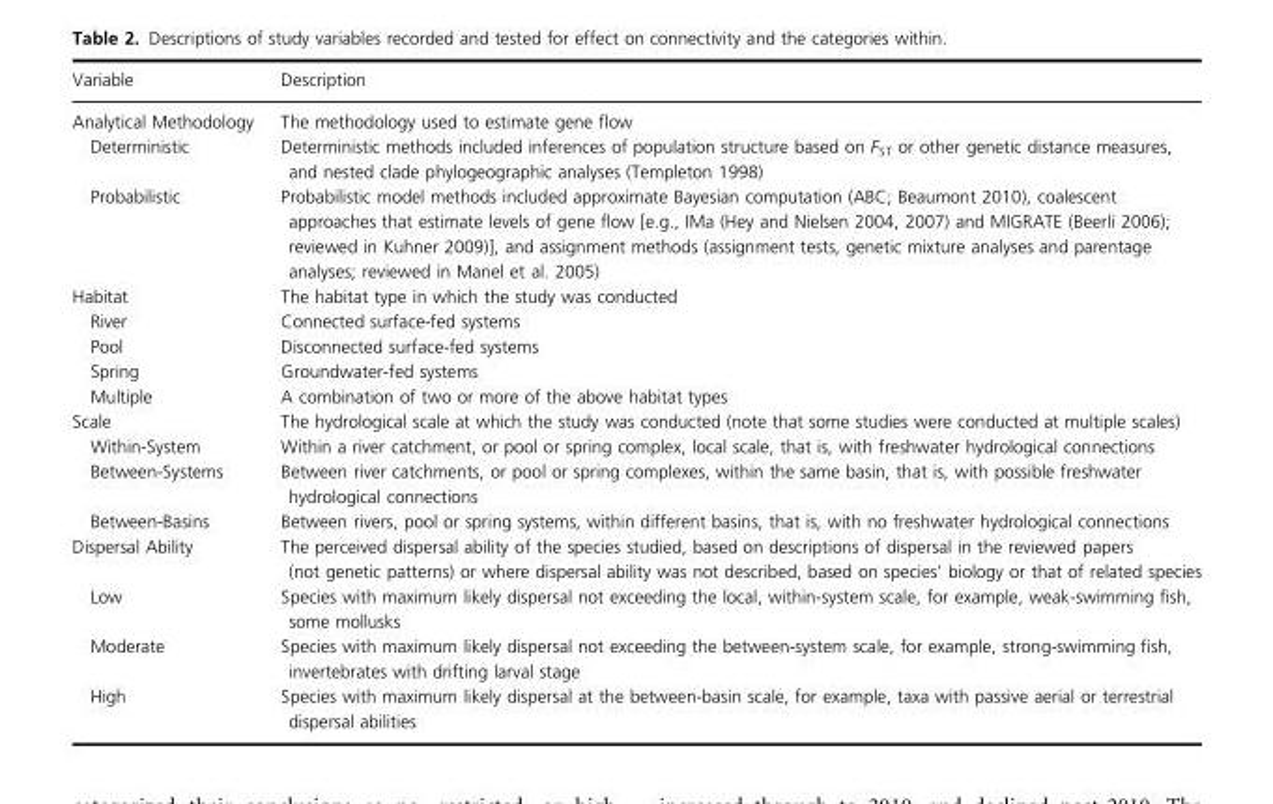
<table><thead><tr><td>Variable</td><td>Description</td></tr></thead><tbody><tr><td>Analytical Methodology</td><td>The methodology used to estimate gene flow</td></tr><tr><td>Deterministic</td><td>Deterministic methods included inferences of population structure based on F<sub>ST</sub> or other genetic distance measures, and nested clade phylogeographic analyses (Templeton 1998)</td></tr><tr><td>Probabilistic</td><td>Probabilistic model methods included approximate Bayesian computation (ABC; Beaumont 2010), coalescent approaches that estimate levels of gene flow [e.g., IMa (Hey and Nielsen 2004, 2007) and MIGRATE (Beerli 2006); reviewed in Kuhner 2009)], and assignment methods (assignment tests, genetic mixture analyses and parentage analyses; reviewed in Manel et al. 2005)</td></tr><tr><td>Habitat</td><td>The habitat type in which the study was conducted</td></tr><tr><td>River</td><td>Connected surface-fed systems</td></tr><tr><td>Pool</td><td>Disconnected surface-fed systems</td></tr><tr><td>Spring</td><td>Groundwater-fed systems</td></tr><tr><td>Multiple</td><td>A combination of two or more of the above habitat types</td></tr><tr><td>Scale</td><td>The hydrological scale at which the study was conducted (note that some studies were conducted at multiple scales)</td></tr><tr><td>Within-System</td><td>Within a river catchment, or pool or spring complex, local scale, that is, with freshwater hydrological connections</td></tr><tr><td>Between-Systems</td><td>Between river catchments, or pool or spring complexes, within the same basin, that is, with possible freshwater hydrological connections</td></tr><tr><td>Between-Basins</td><td>Between rivers, pool or spring systems, within different basins, that is, with no freshwater hydrological connections</td></tr><tr><td>Dispersal Ability</td><td>The perceived dispersal ability of the species studied, based on descriptions of dispersal in the reviewed papers (not genetic patterns) or where dispersal ability was not described, based on species’ biology or that of related species</td></tr><tr><td>Low</td><td>Species with maximum likely dispersal not exceeding the local, within-system scale, for example, weak-swimming fish, some mollusks</td></tr><tr><td>Moderate</td><td>Species with maximum likely dispersal not exceeding the between-system scale, for example, strong-swimming fish, invertebrates with drifting larval stage</td></tr><tr><td>High</td><td>Species with maximum likely dispersal at the between-basin scale, for example, taxa with passive aerial or terrestrial dispersal abilities</td></tr></tbody></table>